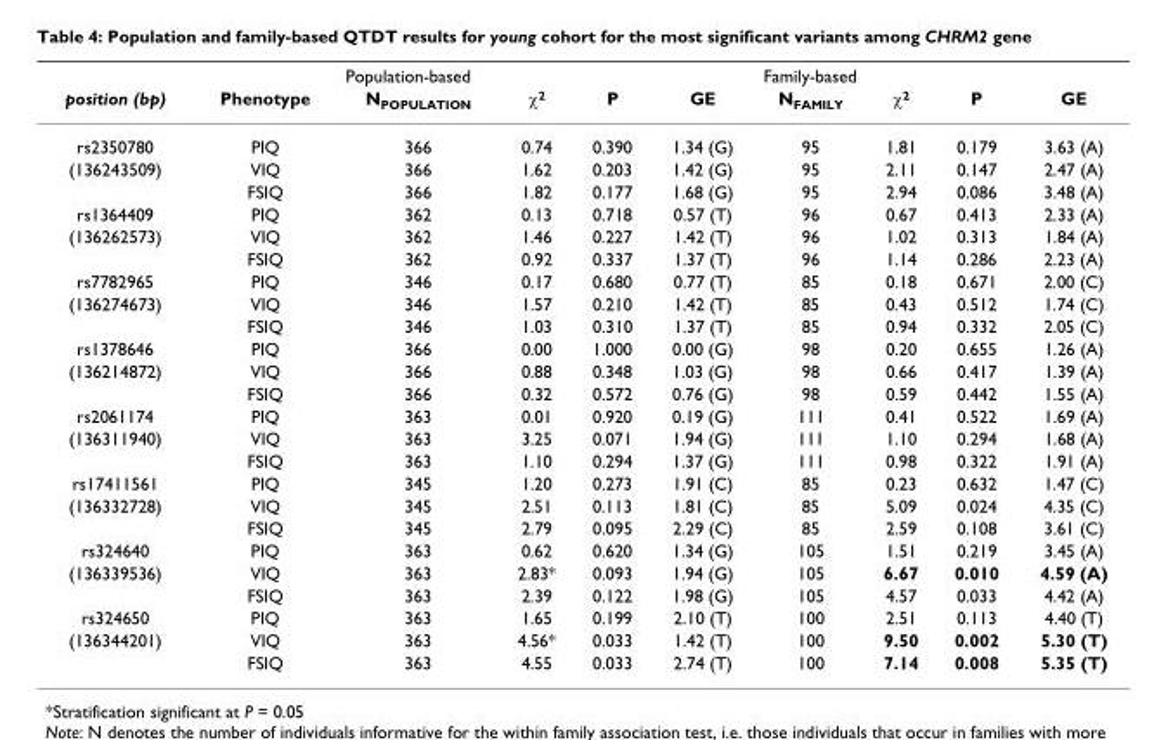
<table><thead><tr><td rowspan="2">position (bp)</td><td rowspan="2">Phenotype</td><td colspan="4">Population-based</td><td colspan="4">Family-based</td></tr><tr><td>N<sub>POPULATION</sub></td><td>χ<sup>2</sup></td><td>P</td><td>GE</td><td>N<sub>FAMILY</sub></td><td>χ<sup>2</sup></td><td>P</td><td>GE</td></tr></thead><tbody><tr><td>rs2350780</td><td>PIQ</td><td>366</td><td>0.74</td><td>0.390</td><td>1.34 (G)</td><td>95</td><td>1.81</td><td>0.179</td><td>3.63 (A)</td></tr><tr><td rowspan="2">(136243509)</td><td>VIQ</td><td>366</td><td>1.62</td><td>0.203</td><td>1.42 (G)</td><td>95</td><td>2.11</td><td>0.147</td><td>2.47 (A)</td></tr><tr><td>FSIQ</td><td>366</td><td>1.82</td><td>0.177</td><td>1.68 (G)</td><td>95</td><td>2.94</td><td>0.086</td><td>3.48 (A)</td></tr><tr><td>rs1364409</td><td>PIQ</td><td>362</td><td>0.13</td><td>0.718</td><td>0.57 (T)</td><td>96</td><td>0.67</td><td>0.413</td><td>2.33 (A)</td></tr><tr><td rowspan="2">(136262573)</td><td>VIQ</td><td>362</td><td>1.46</td><td>0.227</td><td>1.42 (T)</td><td>96</td><td>1.02</td><td>0.313</td><td>1.84 (A)</td></tr><tr><td>FSIQ</td><td>362</td><td>0.92</td><td>0.337</td><td>1.37 (T)</td><td>96</td><td>1.14</td><td>0.286</td><td>2.23 (A)</td></tr><tr><td>rs7782965</td><td>PIQ</td><td>346</td><td>0.17</td><td>0.680</td><td>0.77 (T)</td><td>85</td><td>0.18</td><td>0.671</td><td>2.00 (C)</td></tr><tr><td rowspan="2">(136274673)</td><td>VIQ</td><td>346</td><td>1.57</td><td>0.210</td><td>1.42 (T)</td><td>85</td><td>0.43</td><td>0.512</td><td>1.74 (C)</td></tr><tr><td>FSIQ</td><td>346</td><td>1.03</td><td>0.310</td><td>1.37 (T)</td><td>85</td><td>0.94</td><td>0.332</td><td>2.05 (C)</td></tr><tr><td>rs1378646</td><td>PIQ</td><td>366</td><td>0.00</td><td>1.000</td><td>0.00 (G)</td><td>98</td><td>0.20</td><td>0.655</td><td>1.26 (A)</td></tr><tr><td rowspan="2">(136214872)</td><td>VIQ</td><td>366</td><td>0.88</td><td>0.348</td><td>1.03 (G)</td><td>98</td><td>0.66</td><td>0.417</td><td>1.39 (A)</td></tr><tr><td>FSIQ</td><td>366</td><td>0.32</td><td>0.572</td><td>0.76 (G)</td><td>98</td><td>0.59</td><td>0.442</td><td>1.55 (A)</td></tr><tr><td>rs2061174</td><td>PIQ</td><td>363</td><td>0.01</td><td>0.920</td><td>0.19 (G)</td><td>111</td><td>0.41</td><td>0.522</td><td>1.69 (A)</td></tr><tr><td rowspan="2">(136311940)</td><td>VIQ</td><td>363</td><td>3.25</td><td>0.071</td><td>1.94 (G)</td><td>111</td><td>1.10</td><td>0.294</td><td>1.68 (A)</td></tr><tr><td>FSIQ</td><td>363</td><td>1.10</td><td>0.294</td><td>1.37 (G)</td><td>111</td><td>0.98</td><td>0.322</td><td>1.91 (A)</td></tr><tr><td>rs17411561</td><td>PIQ</td><td>345</td><td>1.20</td><td>0.273</td><td>1.91 (C)</td><td>85</td><td>0.23</td><td>0.632</td><td>1.47 (C)</td></tr><tr><td rowspan="2">(136332728)</td><td>VIQ</td><td>345</td><td>2.51</td><td>0.113</td><td>1.81 (C)</td><td>85</td><td>5.09</td><td>0.024</td><td>4.35 (C)</td></tr><tr><td>FSIQ</td><td>345</td><td>2.79</td><td>0.095</td><td>2.29 (C)</td><td>85</td><td>2.59</td><td>0.108</td><td>3.61 (C)</td></tr><tr><td>rs324640</td><td>PIQ</td><td>363</td><td>0.62</td><td>0.620</td><td>1.34 (G)</td><td>105</td><td>1.51</td><td>0.219</td><td>3.45 (A)</td></tr><tr><td rowspan="2">(136339536)</td><td>VIQ</td><td>363</td><td>2.83*</td><td>0.093</td><td>1.94 (G)</td><td>105</td><td>6.67</td><td>0.010</td><td>4.59 (A)</td></tr><tr><td>FSIQ</td><td>363</td><td>2.39</td><td>0.122</td><td>1.98 (G)</td><td>105</td><td>4.57</td><td>0.033</td><td>4.42 (A)</td></tr><tr><td>rs324650</td><td>PIQ</td><td>363</td><td>1.65</td><td>0.199</td><td>2.10 (T)</td><td>100</td><td>2.51</td><td>0.113</td><td>4.40 (T)</td></tr><tr><td rowspan="2">(136344201)</td><td>VIQ</td><td>363</td><td>4.56*</td><td>0.033</td><td>1.42 (T)</td><td>100</td><td>9.50</td><td>0.002</td><td>5.30 (T)</td></tr><tr><td>FSIQ</td><td>363</td><td>4.55</td><td>0.033</td><td>2.74 (T)</td><td>100</td><td>7.14</td><td>0.008</td><td>5.35 (T)</td></tr></tbody></table>